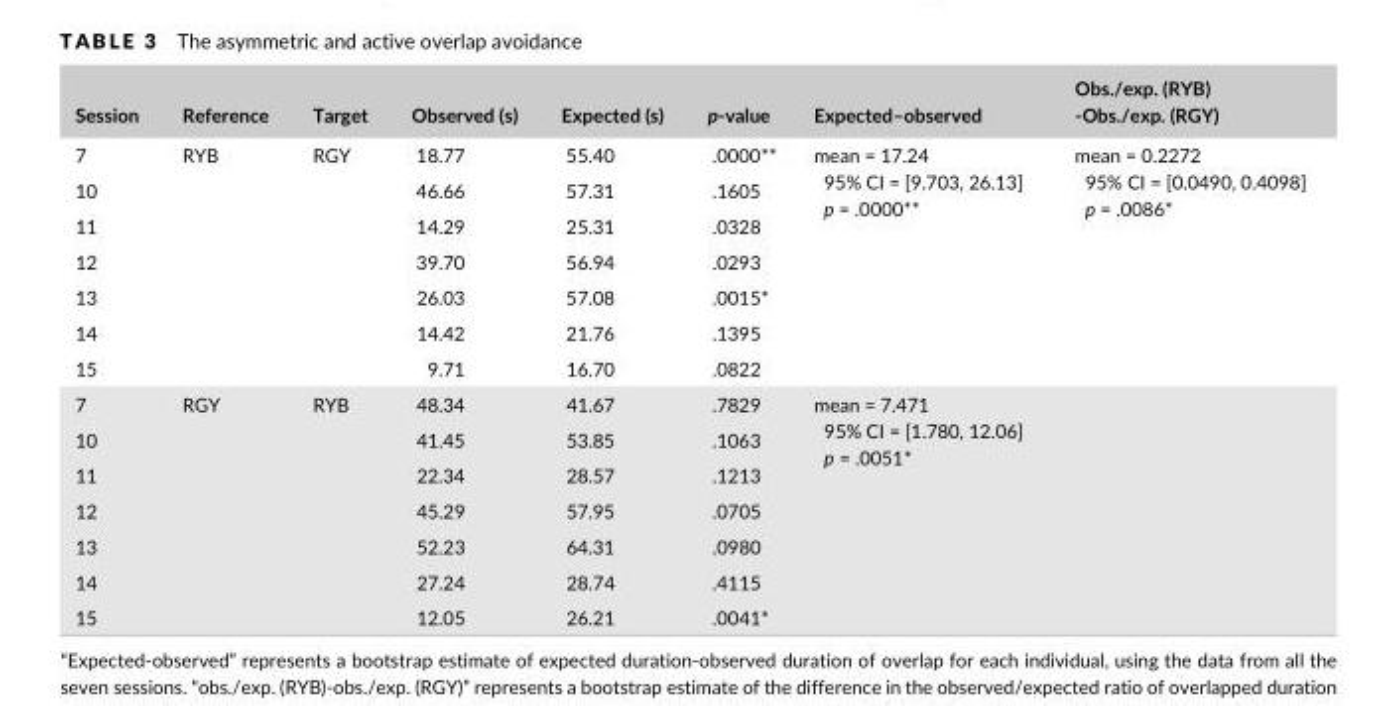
<table><thead><tr><td>Session</td><td>Reference</td><td>Target</td><td>Observed (s)</td><td>Expected (s)</td><td>p- value</td><td>Expected–observed</td><td>Obs./exp. (RYB) - Obs./exp. (RGY)</td></tr></thead><tbody><tr><td>7</td><td rowspan="7">RYB</td><td rowspan="7">RGY</td><td>18.77</td><td>55.40</td><td>.0000**</td><td rowspan="7">mean = 17.24 95% CI = [9.703, 26.13] p = .0000**</td><td rowspan="7">mean = 0.2272 95% CI = [0.0490, 0.4098] p = .0086*</td></tr><tr><td>10</td><td>46.66</td><td>57.31</td><td>.1605</td></tr><tr><td>11</td><td>14.29</td><td>25.31</td><td>.0328</td></tr><tr><td>12</td><td>39.70</td><td>56.94</td><td>.0293</td></tr><tr><td>13</td><td>26.03</td><td>57.08</td><td>.0015*</td></tr><tr><td>14</td><td>14.42</td><td>21.76</td><td>.1395</td></tr><tr><td>15</td><td>9.71</td><td>16.70</td><td>.0822</td></tr><tr><td>7</td><td rowspan="7">RGY</td><td rowspan="7">RYB</td><td>48.34</td><td>41.67</td><td>.7829</td><td rowspan="7">mean = 7.471 95% CI = [1.780, 12.06] p = .0051*</td><td rowspan="7"></td></tr><tr><td>10</td><td>41.45</td><td>53.85</td><td>.1063</td></tr><tr><td>11</td><td>22.34</td><td>28.57</td><td>.1213</td></tr><tr><td>12</td><td>45.29</td><td>57.95</td><td>.0705</td></tr><tr><td>13</td><td>52.23</td><td>64.31</td><td>.0980</td></tr><tr><td>14</td><td>27.24</td><td>28.74</td><td>.4115</td></tr><tr><td>15</td><td>12.05</td><td>26.21</td><td>.0041*</td></tr></tbody></table>